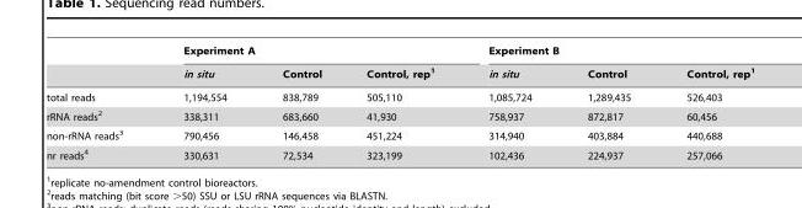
<table><thead><tr><td rowspan="2"></td><td colspan="3">Experiment A</td><td colspan="3">Experiment B</td></tr><tr><td>in situ</td><td>Control</td><td>Control, rep<sup>1</sup></td><td>in situ</td><td>Control</td><td>Control, rep<sup>1</sup></td></tr></thead><tbody><tr><td>total reads</td><td>1,194,554</td><td>838,789</td><td>505,110</td><td>1,085,724</td><td>1,289,435</td><td>526,403</td></tr><tr><td>rRNA reads<sup>2</sup></td><td>338,311</td><td>683,660</td><td>41,930</td><td>758,937</td><td>872,817</td><td>60,456</td></tr><tr><td>non-rRNA reads<sup>3</sup></td><td>790,456</td><td>146,458</td><td>451,224</td><td>314,940</td><td>403,884</td><td>440,688</td></tr><tr><td>nr reads<sup>4</sup></td><td>330,631</td><td>72,534</td><td>323,199</td><td>102,436</td><td>224,937</td><td>257,066</td></tr></tbody></table>